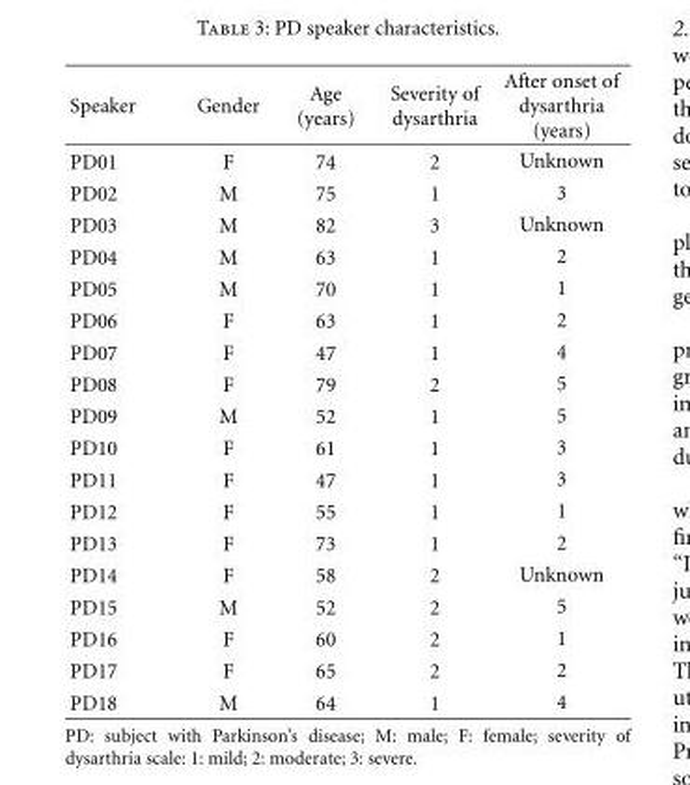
<table><thead><tr><td>Speaker</td><td>Gender</td><td>Age (years)</td><td>Severity of dysarthria</td><td>After onset of dysarthria (years)</td></tr></thead><tbody><tr><td>PD01</td><td>F</td><td>74</td><td>2</td><td>Unknown</td></tr><tr><td>PD02</td><td>M</td><td>75</td><td>1</td><td>3</td></tr><tr><td>PD03</td><td>M</td><td>82</td><td>3</td><td>Unknown</td></tr><tr><td>PD04</td><td>M</td><td>63</td><td>1</td><td>2</td></tr><tr><td>PD05</td><td>M</td><td>70</td><td>1</td><td>1</td></tr><tr><td>PD06</td><td>F</td><td>63</td><td>1</td><td>2</td></tr><tr><td>PD07</td><td>F</td><td>47</td><td>1</td><td>4</td></tr><tr><td>PD08</td><td>F</td><td>79</td><td>2</td><td>5</td></tr><tr><td>PD09</td><td>M</td><td>52</td><td>1</td><td>5</td></tr><tr><td>PD10</td><td>F</td><td>61</td><td>1</td><td>3</td></tr><tr><td>PD11</td><td>F</td><td>47</td><td>1</td><td>3</td></tr><tr><td>PD12</td><td>F</td><td>55</td><td>1</td><td>1</td></tr><tr><td>PD13</td><td>F</td><td>73</td><td>1</td><td>2</td></tr><tr><td>PD14</td><td>F</td><td>58</td><td>2</td><td>Unknown</td></tr><tr><td>PD15</td><td>M</td><td>52</td><td>2</td><td>5</td></tr><tr><td>PD16</td><td>F</td><td>60</td><td>2</td><td>1</td></tr><tr><td>PD17</td><td>F</td><td>65</td><td>2</td><td>2</td></tr><tr><td>PD18</td><td>M</td><td>64</td><td>1</td><td>4</td></tr></tbody></table>